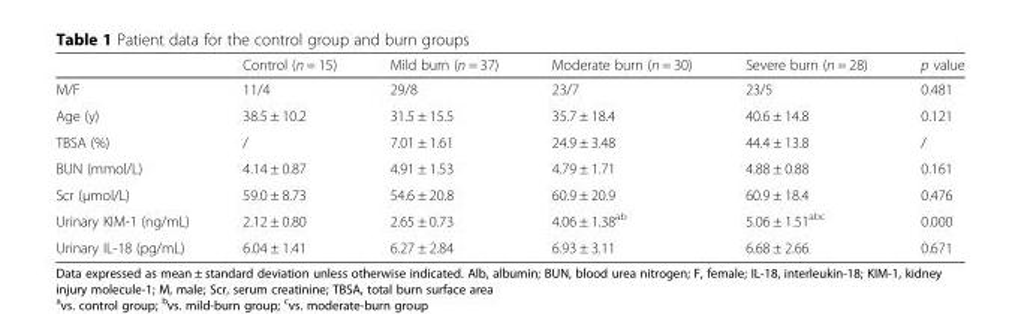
<table><thead><tr><td></td><td>Control (n = 15)</td><td>Mild burn (n = 37)</td><td>Moderate burn (n = 30)</td><td>Severe burn (n = 28)</td><td>p value</td></tr></thead><tbody><tr><td>M/F</td><td>11/4</td><td>29/8</td><td>23/7</td><td>23/5</td><td>0.481</td></tr><tr><td>Age (y)</td><td>38.5 ± 10.2</td><td>31.5 ± 15.5</td><td>35.7 ± 18.4</td><td>40.6 ± 14.8</td><td>0.121</td></tr><tr><td>TBSA (%)</td><td>/</td><td>7.01 ± 1.61</td><td>24.9 ± 3.48</td><td>44.4 ± 13.8</td><td>/</td></tr><tr><td>BUN (mmol/L)</td><td>4.14 ± 0.87</td><td>4.91 ± 1.53</td><td>4.79 ± 1.71</td><td>4.88 ± 0.88</td><td>0.161</td></tr><tr><td>Scr (μmol/L)</td><td>59.0 ± 8.73</td><td>54.6 ± 20.8</td><td>60.9 ± 20.9</td><td>60.9 ± 18.4</td><td>0.476</td></tr><tr><td>Urinary KIM-1 (ng/mL)</td><td>2.12 ± 0.80</td><td>2.65 ± 0.73</td><td>4.06 ± 1.38<sup>ab</sup></td><td>5.06 ± 1.51<sup>abc</sup></td><td>0.000</td></tr><tr><td>Urinary IL-18 (pg/mL)</td><td>6.04 ± 1.41</td><td>6.27 ± 2.84</td><td>6.93 ± 3.11</td><td>6.68 ± 2.66</td><td>0.671</td></tr></tbody></table>